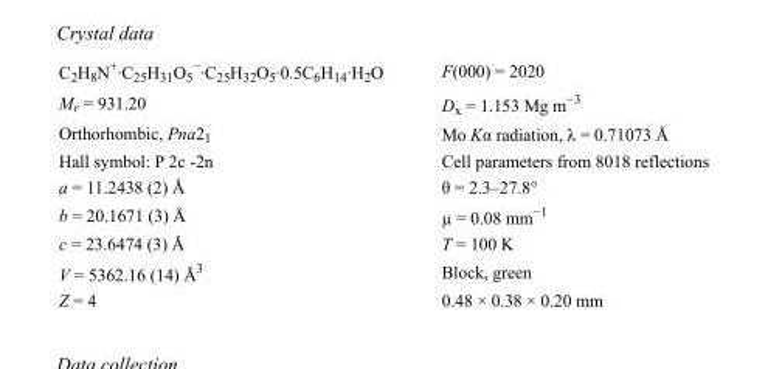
<table><tbody><tr><td>C<sub>2</sub>H<sub>8</sub>N<sup>+</sup>·C<sub>25</sub>H<sub>31</sub>O<sub>5</sub> <sup>−</sup>·C<sub>25</sub>H<sub>32</sub>O<sub>5</sub>·0.5C<sub>6</sub>H<sub>14</sub>·H<sub>2</sub>O</td><td>F(000) = 2020</td></tr><tr><td>M<sub>r</sub> = 931.20</td><td>D<sub>x</sub> = 1.153 Mg m<sup>−3</sup></td></tr><tr><td>Orthorhombic, Pna2<sub>1</sub></td><td>Mo Kα radiation, λ = 0.71073 Å</td></tr><tr><td>Hall symbol: P 2c -2n</td><td>Cell parameters from 8018 reflections</td></tr><tr><td>a = 11.2438 (2) Å</td><td>θ = 2.3–27.8°</td></tr><tr><td>b = 20.1671 (3) Å</td><td>µ = 0.08 mm<sup>−1</sup></td></tr><tr><td>c = 23.6474 (3) Å</td><td>T = 100 K</td></tr><tr><td>V = 5362.16 (14) Å<sup>3</sup></td><td>Block, green</td></tr><tr><td>Z = 4</td><td>0.48 × 0.38 × 0.20 mm</td></tr></tbody></table>